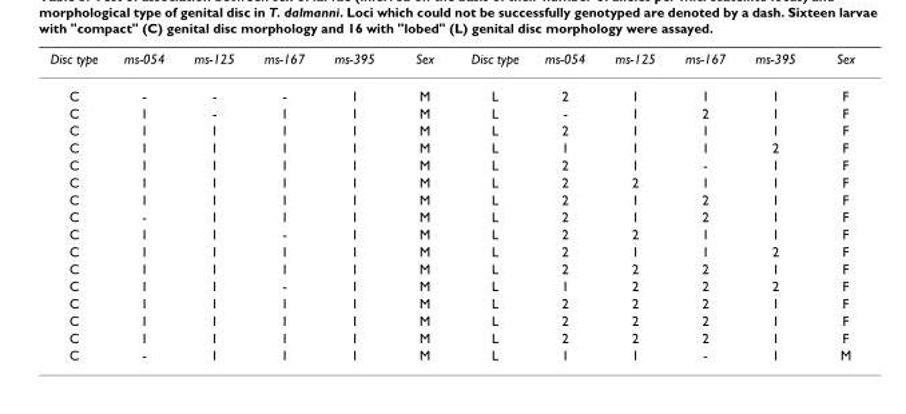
<table><thead><tr><td>Disc type</td><td>ms-054</td><td>ms-125</td><td>ms-167</td><td>ms-395</td><td>Sex</td><td>Disc type</td><td>ms-054</td><td>ms-125</td><td>ms-167</td><td>ms-395</td><td>Sex</td></tr></thead><tbody><tr><td>C</td><td>-</td><td>-</td><td>-</td><td>1</td><td>M</td><td>L</td><td>2</td><td>1</td><td>1</td><td>1</td><td>F</td></tr><tr><td>C</td><td>1</td><td>-</td><td>1</td><td>1</td><td>M</td><td>L</td><td>-</td><td>1</td><td>2</td><td>1</td><td>F</td></tr><tr><td>C</td><td>1</td><td>1</td><td>1</td><td>1</td><td>M</td><td>L</td><td>2</td><td>1</td><td>1</td><td>1</td><td>F</td></tr><tr><td>C</td><td>1</td><td>1</td><td>1</td><td>1</td><td>M</td><td>L</td><td>1</td><td>1</td><td>1</td><td>2</td><td>F</td></tr><tr><td>C</td><td>1</td><td>1</td><td>1</td><td>1</td><td>M</td><td>L</td><td>2</td><td>1</td><td>-</td><td>1</td><td>F</td></tr><tr><td>C</td><td>1</td><td>1</td><td>1</td><td>1</td><td>M</td><td>L</td><td>2</td><td>2</td><td>1</td><td>1</td><td>F</td></tr><tr><td>C</td><td>1</td><td>1</td><td>1</td><td>1</td><td>M</td><td>L</td><td>2</td><td>1</td><td>2</td><td>1</td><td>F</td></tr><tr><td>C</td><td>-</td><td>1</td><td>1</td><td>1</td><td>M</td><td>L</td><td>2</td><td>1</td><td>2</td><td>1</td><td>F</td></tr><tr><td>C</td><td>1</td><td>1</td><td>-</td><td>1</td><td>M</td><td>L</td><td>2</td><td>2</td><td>1</td><td>1</td><td>F</td></tr><tr><td>C</td><td>1</td><td>1</td><td>1</td><td>1</td><td>M</td><td>L</td><td>2</td><td>1</td><td>1</td><td>2</td><td>F</td></tr><tr><td>C</td><td>1</td><td>1</td><td>1</td><td>1</td><td>M</td><td>L</td><td>2</td><td>2</td><td>2</td><td>1</td><td>F</td></tr><tr><td>C</td><td>1</td><td>1</td><td>-</td><td>1</td><td>M</td><td>L</td><td>1</td><td>2</td><td>2</td><td>2</td><td>F</td></tr><tr><td>C</td><td>1</td><td>1</td><td>1</td><td>1</td><td>M</td><td>L</td><td>2</td><td>2</td><td>2</td><td>1</td><td>F</td></tr><tr><td>C</td><td>1</td><td>1</td><td>1</td><td>1</td><td>M</td><td>L</td><td>2</td><td>2</td><td>2</td><td>1</td><td>F</td></tr><tr><td>C</td><td>1</td><td>1</td><td>1</td><td>1</td><td>M</td><td>L</td><td>2</td><td>2</td><td>2</td><td>1</td><td>F</td></tr><tr><td>C</td><td>-</td><td>1</td><td>1</td><td>1</td><td>M</td><td>L</td><td>1</td><td>1</td><td>-</td><td>1</td><td>M</td></tr></tbody></table>